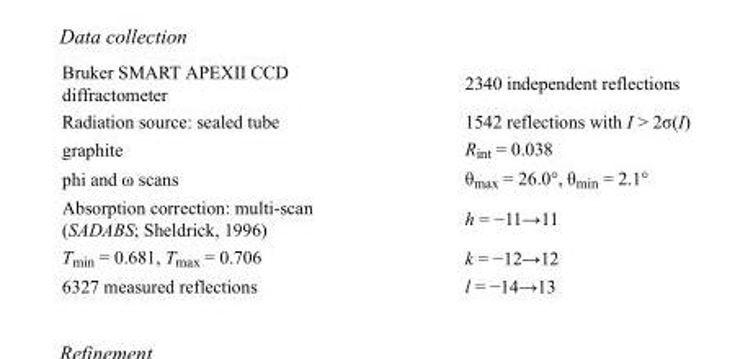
<table><tbody><tr><td>Bruker SMART APEXII CCD diffractometer</td><td>2340 independent reflections</td></tr><tr><td>Radiation source: sealed tube</td><td>1542 reflections with I &gt; 2σ(I)</td></tr><tr><td>graphite</td><td>R<sub>int</sub> = 0.038</td></tr><tr><td>phi and ω scans</td><td>θ<sub>max</sub> = 26.0°, θ<sub>min</sub> = 2.1°</td></tr><tr><td>Absorption correction: multi-scan (SADABS; Sheldrick, 1996)</td><td>h = −11→11</td></tr><tr><td>T<sub>min</sub> = 0.681, T<sub>max</sub> = 0.706</td><td>k = −12→12</td></tr><tr><td>6327 measured reflections</td><td>l = −14→13</td></tr></tbody></table>